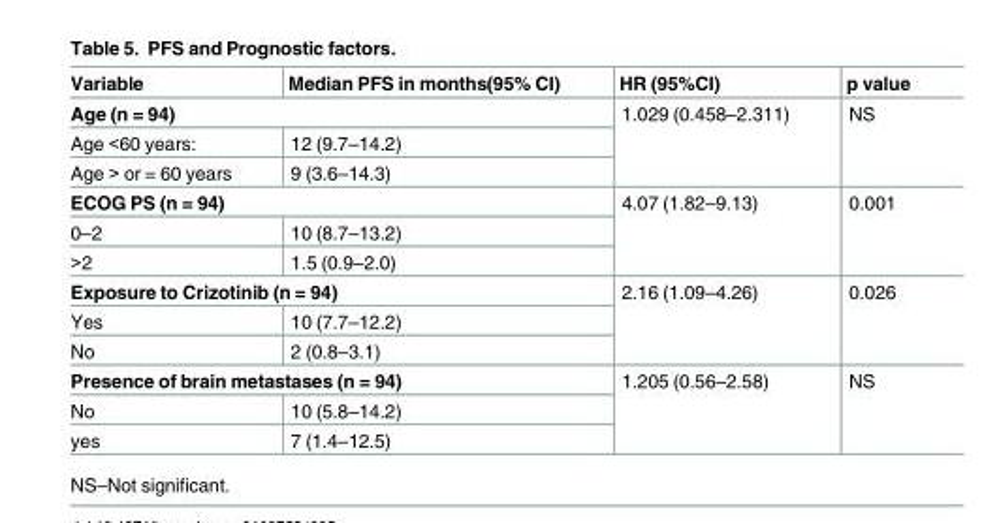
<table><thead><tr><td>Variable</td><td>Median PFS in months(95% CI)</td><td>HR (95%CI)</td><td>p value</td></tr></thead><tbody><tr><td colspan="2">Age (n = 94)</td><td rowspan="3">1.029 (0.458–2.311)</td><td rowspan="3">NS</td></tr><tr><td>Age &lt;60 years:</td><td>12 (9.7–14.2)</td></tr><tr><td>Age &gt; or = 60 years</td><td>9 (3.6–14.3)</td></tr><tr><td colspan="2">ECOG PS (n = 94)</td><td rowspan="3">4.07 (1.82–9.13)</td><td rowspan="3">0.001</td></tr><tr><td>0–2</td><td>10 (8.7–13.2)</td></tr><tr><td>&gt;2</td><td>1.5 (0.9–2.0)</td></tr><tr><td colspan="2">Exposure to Crizotinib (n = 94)</td><td rowspan="3">2.16 (1.09–4.26)</td><td rowspan="3">0.026</td></tr><tr><td>Yes</td><td>10 (7.7–12.2)</td></tr><tr><td>No</td><td>2 (0.8–3.1)</td></tr><tr><td colspan="2">Presence of brain metastases (n = 94)</td><td rowspan="3">1.205 (0.56–2.58)</td><td rowspan="3">NS</td></tr><tr><td>No</td><td>10 (5.8–14.2)</td></tr><tr><td>yes</td><td>7 (1.4–12.5)</td></tr></tbody></table>